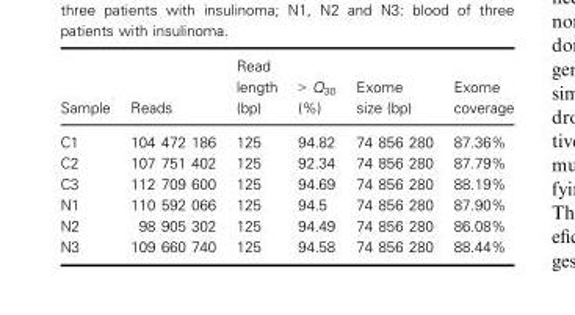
<table><thead><tr><td>Sample</td><td>Reads</td><td>Read length (bp)</td><td>&gt; Q<sub>30</sub> (%)</td><td>Exome size (bp)</td><td>Exome coverage</td></tr></thead><tbody><tr><td>C1</td><td>104 472 186</td><td>125</td><td>94.82</td><td>74 856 280</td><td>87.36%</td></tr><tr><td>C2</td><td>107 751 402</td><td>125</td><td>92.34</td><td>74 856 280</td><td>87.79%</td></tr><tr><td>C3</td><td>112 709 600</td><td>125</td><td>94.69</td><td>74 856 280</td><td>88.19%</td></tr><tr><td>N1</td><td>110 592 066</td><td>125</td><td>94.5</td><td>74 856 280</td><td>87.90%</td></tr><tr><td>N2</td><td>98 905 302</td><td>125</td><td>94.49</td><td>74 856 280</td><td>86.08%</td></tr><tr><td>N3</td><td>109 660 740</td><td>125</td><td>94.58</td><td>74 856 280</td><td>88.44%</td></tr></tbody></table>